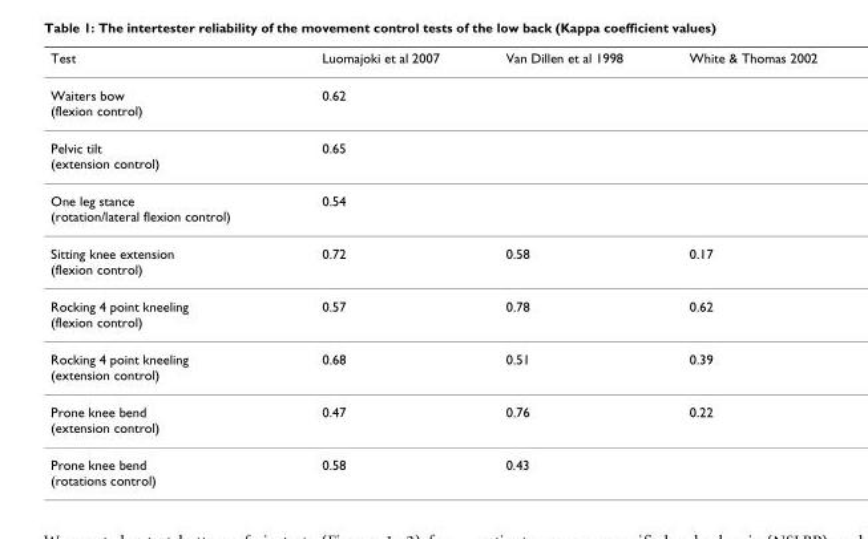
<table><thead><tr><td>Test</td><td>Luomajoki et al 2007</td><td>Van Dillen et al 1998</td><td>White &amp; Thomas 2002</td></tr></thead><tbody><tr><td>Waiters bow (flexion control)</td><td>0.62</td><td></td><td></td></tr><tr><td>Pelvic tilt (extension control)</td><td>0.65</td><td></td><td></td></tr><tr><td>One leg stance (rotation/lateral flexion control)</td><td>0.54</td><td></td><td></td></tr><tr><td>Sitting knee extension (flexion control)</td><td>0.72</td><td>0.58</td><td>0.17</td></tr><tr><td>Rocking 4 point kneeling (flexion control)</td><td>0.57</td><td>0.78</td><td>0.62</td></tr><tr><td>Rocking 4 point kneeling (extension control)</td><td>0.68</td><td>0.51</td><td>0.39</td></tr><tr><td>Prone knee bend (extension control)</td><td>0.47</td><td>0.76</td><td>0.22</td></tr><tr><td>Prone knee bend (rotations control)</td><td>0.58</td><td>0.43</td><td></td></tr></tbody></table>